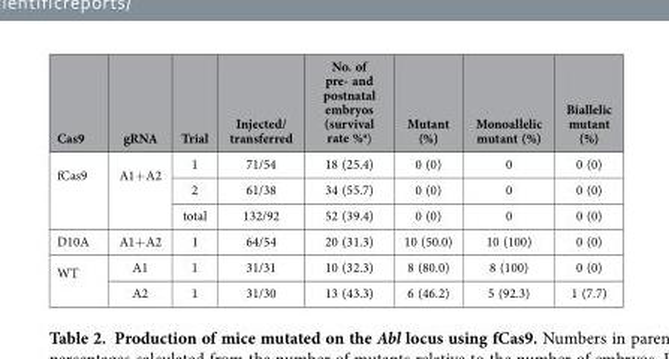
<table><thead><tr><td>Cas9</td><td>gRNA</td><td>Trial</td><td>Injected/ transferred</td><td>No. of pre- and postnatal embryos (survival rate %<sup>a</sup>)</td><td>Mutant (%)</td><td>Monoallelic mutant (%)</td><td>Biallelic mutant (%)</td></tr></thead><tbody><tr><td rowspan="3">fCas9</td><td rowspan="3">A1+ A2</td><td>1</td><td>71/54</td><td>18 (25.4)</td><td>0 (0)</td><td>0</td><td>0 (0)</td></tr><tr><td>2</td><td>61/38</td><td>34 (55.7)</td><td>0 (0)</td><td>0</td><td>0 (0)</td></tr><tr><td>total</td><td>132/92</td><td>52 (39.4)</td><td>0 (0)</td><td>0</td><td>0 (0)</td></tr><tr><td>D10A</td><td>A1+ A2</td><td>1</td><td>64/54</td><td>20 (31.3)</td><td>10 (50.0)</td><td>10 (100)</td><td>0 (0)</td></tr><tr><td rowspan="2">WT</td><td>A1</td><td>1</td><td>31/31</td><td>10 (32.3)</td><td>8 (80.0)</td><td>8 (100)</td><td>0 (0)</td></tr><tr><td>A2</td><td>1</td><td>31/30</td><td>13 (43.3)</td><td>6 (46.2)</td><td>5 (92.3)</td><td>1 (7.7)</td></tr></tbody></table>